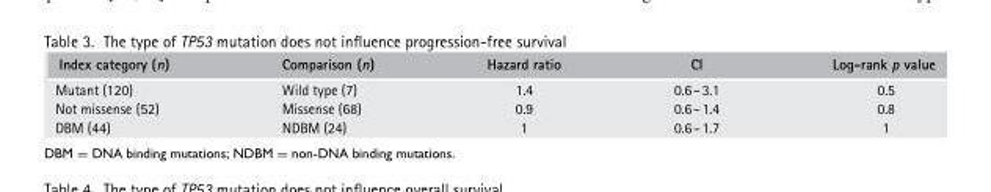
<table><thead><tr><td>Index category (n)</td><td>Comparison (n)</td><td>Hazard ratio</td><td>CI</td><td>Log-rank p value</td></tr></thead><tbody><tr><td>Mutant (120)</td><td>Wild type (7)</td><td>1.4</td><td>0.6–3.1</td><td>0.5</td></tr><tr><td>Not missense (52)</td><td>Missense (68)</td><td>0.9</td><td>0.6–1.4</td><td>0.8</td></tr><tr><td>DBM (44)</td><td>NDBM (24)</td><td>1</td><td>0.6–1.7</td><td>1</td></tr></tbody></table>